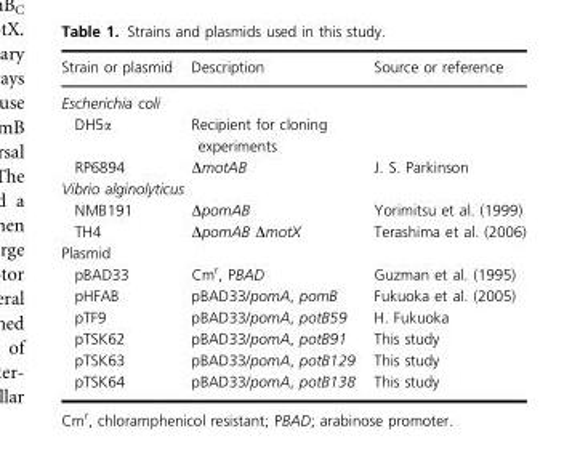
<table><thead><tr><td>Strain or plasmid</td><td>Description</td><td>Source or reference</td></tr></thead><tbody><tr><td colspan="3">Escherichia coli</td></tr><tr><td>DH5α</td><td>Recipient for cloning experiments</td><td></td></tr><tr><td>RP6894</td><td>ΔmotAB</td><td>J. S. Parkinson</td></tr><tr><td colspan="3">Vibrio alginolyticus</td></tr><tr><td>NMB191</td><td>ΔpomAB</td><td>Yorimitsu et al. (1999)</td></tr><tr><td>TH4</td><td>ΔpomAB ΔmotX</td><td>Terashima et al. (2006)</td></tr><tr><td colspan="3">Plasmid</td></tr><tr><td>pBAD33</td><td>Cm<sup>r</sup>, PBAD</td><td>Guzman et al. (1995)</td></tr><tr><td>pHFAB</td><td>pBAD33/pomA, pomB</td><td>Fukuoka et al. (2005)</td></tr><tr><td>pTF9</td><td>pBAD33/pomA, potB59</td><td>H. Fukuoka</td></tr><tr><td>pTSK62</td><td>pBAD33/pomA, potB91</td><td>This study</td></tr><tr><td>pTSK63</td><td>pBAD33/pomA, potB129</td><td>This study</td></tr><tr><td>pTSK64</td><td>pBAD33/pomA, potB138</td><td>This study</td></tr></tbody></table>